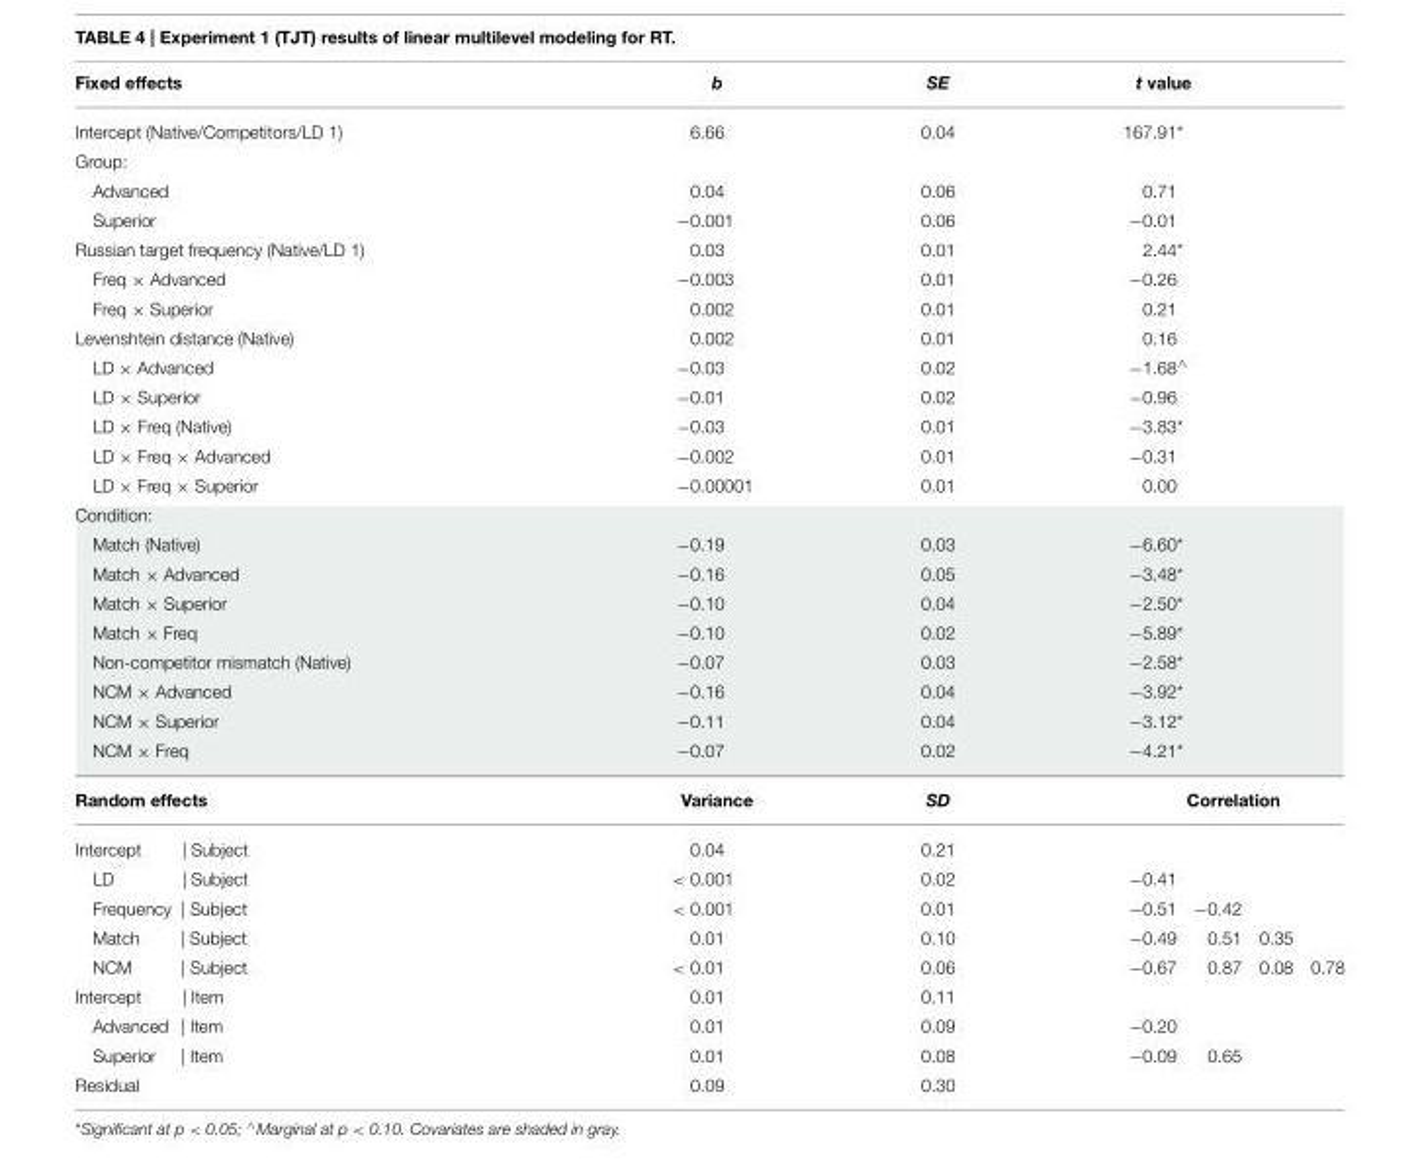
<table><thead><tr><td>Fixed effects</td><td>b</td><td>SE</td><td>t value</td></tr></thead><tbody><tr><td>Intercept (Native/Competitors/LD 1)</td><td>6.66</td><td>0.04</td><td>167.91*</td></tr><tr><td colspan="4">Group:</td></tr><tr><td>Advanced</td><td>0.04</td><td>0.06</td><td>0.71</td></tr><tr><td>Superior</td><td>−0.001</td><td>0.06</td><td>−0.01</td></tr><tr><td>Russian target frequency (Native/LD 1)</td><td>0.03</td><td>0.01</td><td>2.44*</td></tr><tr><td>Freq × Advanced</td><td>−0.003</td><td>0.01</td><td>−0.26</td></tr><tr><td>Freq × Superior</td><td>0.002</td><td>0.01</td><td>0.21</td></tr><tr><td>Levenshtein distance (Native)</td><td>0.002</td><td>0.01</td><td>0.16</td></tr><tr><td>LD × Advanced</td><td>−0.03</td><td>0.02</td><td>−1.68<sup>∧</sup></td></tr><tr><td>LD × Superior</td><td>−0.01</td><td>0.02</td><td>−0.96</td></tr><tr><td>LD × Freq (Native)</td><td>−0.03</td><td>0.01</td><td>−3.83*</td></tr><tr><td>LD × Freq × Advanced</td><td>−0.002</td><td>0.01</td><td>−0.31</td></tr><tr><td>LD × Freq × Superior</td><td>−0.00001</td><td>0.01</td><td>0.00</td></tr><tr><td colspan="4">Condition:</td></tr><tr><td>Match (Native)</td><td>−0.19</td><td>0.03</td><td>−6.60*</td></tr><tr><td>Match × Advanced</td><td>−0.16</td><td>0.05</td><td>−3.48*</td></tr><tr><td>Match × Superior</td><td>−0.10</td><td>0.04</td><td>−2.50*</td></tr><tr><td>Match × Freq</td><td>−0.10</td><td>0.02</td><td>−5.89*</td></tr><tr><td>Non-competitor mismatch (Native)</td><td>−0.07</td><td>0.03</td><td>−2.58*</td></tr><tr><td>NCM × Advanced</td><td>−0.16</td><td>0.04</td><td>−3.92*</td></tr><tr><td>NCM × Superior</td><td>−0.11</td><td>0.04</td><td>−3.12*</td></tr><tr><td>NCM × Freq</td><td>−0.07</td><td>0.02</td><td>−4.21*</td></tr><tr><td>Random effects</td><td>Variance</td><td>SD</td><td>Correlation</td></tr><tr><td>Intercept | Subject</td><td>0.04</td><td>0.21</td><td></td></tr><tr><td>LD | Subject</td><td>&lt; 0.001</td><td>0.02</td><td>−0.41</td></tr><tr><td>Frequency | Subject</td><td>&lt; 0.001</td><td>0.01</td><td>−0.51 −0.42</td></tr><tr><td>Match | Subject</td><td>0.01</td><td>0.10</td><td>−0.49 0.51 0.35</td></tr><tr><td>NCM | Subject</td><td>&lt; 0.01</td><td>0.06</td><td>−0.67 0.87 0.08 0.78</td></tr><tr><td>Intercept | Item</td><td>0.01</td><td>0.11</td><td></td></tr><tr><td>Advanced | Item</td><td>0.01</td><td>0.09</td><td>−0.20</td></tr><tr><td>Superior | Item</td><td>0.01</td><td>0.08</td><td>−0.09 0.65</td></tr><tr><td>Residual</td><td>0.09</td><td>0.30</td><td></td></tr></tbody></table>